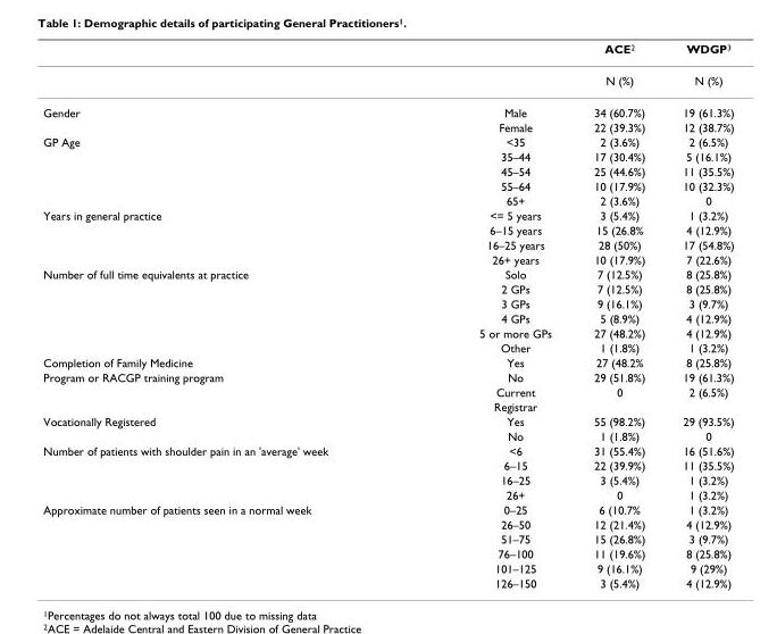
<table><thead><tr><td></td><td></td><td>ACE<sup>2</sup></td><td>WDGP<sup>3</sup></td></tr></thead><tbody><tr><td></td><td></td><td>N (%)</td><td>N (%)</td></tr><tr><td rowspan="2">Gender</td><td>Male</td><td>34 (60.7%)</td><td>19 (61.3%)</td></tr><tr><td>Female</td><td>22 (39.3%)</td><td>12 (38.7%)</td></tr><tr><td rowspan="5">GP Age</td><td>&lt;35</td><td>2 (3.6%)</td><td>2 (6.5%)</td></tr><tr><td>35–44</td><td>17 (30.4%)</td><td>5 (16.1%)</td></tr><tr><td>45–54</td><td>25 (44.6%)</td><td>11 (35.5%)</td></tr><tr><td>55–64</td><td>10 (17.9%)</td><td>10 (32.3%)</td></tr><tr><td>65+</td><td>2 (3.6%)</td><td>0</td></tr><tr><td rowspan="4">Years in general practice</td><td>&lt;= 5 years</td><td>3 (5.4%)</td><td>1 (3.2%)</td></tr><tr><td>6–15 years</td><td>15 (26.8%</td><td>4 (12.9%)</td></tr><tr><td>16–25 years</td><td>28 (50%)</td><td>17 (54.8%)</td></tr><tr><td>26+ years</td><td>10 (17.9%)</td><td>7 (22.6%)</td></tr><tr><td rowspan="6">Number of full time equivalents at practice</td><td>Solo</td><td>7 (12.5%)</td><td>8 (25.8%)</td></tr><tr><td>2 GPs</td><td>7 (12.5%)</td><td>8 (25.8%)</td></tr><tr><td>3 GPs</td><td>9 (16.1%)</td><td>3 (9.7%)</td></tr><tr><td>4 GPs</td><td>5 (8.9%)</td><td>4 (12.9%)</td></tr><tr><td>5 or more GPs</td><td>27 (48.2%)</td><td>4 (12.9%)</td></tr><tr><td>Other</td><td>1 (1.8%)</td><td>1 (3.2%)</td></tr><tr><td>Completion of Family Medicine</td><td>Yes</td><td>27 (48.2%</td><td>8 (25.8%)</td></tr><tr><td rowspan="3">Program or RACGP training program</td><td>No</td><td>29 (51.8%)</td><td>19 (61.3%)</td></tr><tr><td>Current</td><td>0</td><td>2 (6.5%)</td></tr><tr><td>Registrar</td><td></td><td></td></tr><tr><td rowspan="2">Vocationally Registered</td><td>Yes</td><td>55 (98.2%)</td><td>29 (93.5%)</td></tr><tr><td>No</td><td>1 (1.8%)</td><td>0</td></tr><tr><td rowspan="4">Number of patients with shoulder pain in an &#x27;average&#x27; week</td><td>&lt;6</td><td>31 (55.4%)</td><td>16 (51.6%)</td></tr><tr><td>6–15</td><td>22 (39.9%)</td><td>11 (35.5%)</td></tr><tr><td>16–25</td><td>3 (5.4%)</td><td>1 (3.2%)</td></tr><tr><td>26+</td><td>0</td><td>1 (3.2%)</td></tr><tr><td rowspan="6">Approximate number of patients seen in a normal week</td><td>0–25</td><td>6 (10.7%</td><td>1 (3.2%)</td></tr><tr><td>26–50</td><td>12 (21.4%)</td><td>4 (12.9%)</td></tr><tr><td>51–75</td><td>15 (26.8%)</td><td>3 (9.7%)</td></tr><tr><td>76–100</td><td>11 (19.6%)</td><td>8 (25.8%)</td></tr><tr><td>101–125</td><td>9 (16.1%)</td><td>9 (29%)</td></tr><tr><td>126–150</td><td>3 (5.4%)</td><td>4 (12.9%)</td></tr></tbody></table>